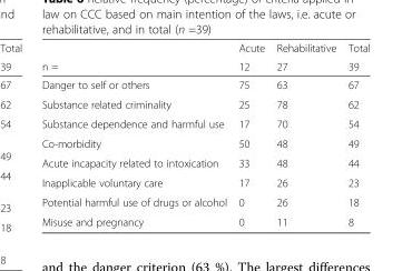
<table><thead><tr><td rowspan="2">n =</td><td rowspan="2">Acute 12</td><td rowspan="2">Rehabilitative 27</td><td rowspan="2">Total 39</td></tr><tr></tr></thead><tbody><tr><td>Danger to self or others</td><td>75</td><td>63</td><td>67</td></tr><tr><td>Substance related criminality</td><td>25</td><td>78</td><td>62</td></tr><tr><td>Substance dependence and harmful use</td><td>17</td><td>70</td><td>54</td></tr><tr><td>Co-morbidity</td><td>50</td><td>48</td><td>49</td></tr><tr><td>Acute incapacity related to intoxication</td><td>33</td><td>48</td><td>44</td></tr><tr><td>Inapplicable voluntary care</td><td>17</td><td>26</td><td>23</td></tr><tr><td>Potential harmful use of drugs or alcohol</td><td>0</td><td>26</td><td>18</td></tr><tr><td>Misuse and pregnancy</td><td>0</td><td>11</td><td>8</td></tr></tbody></table>